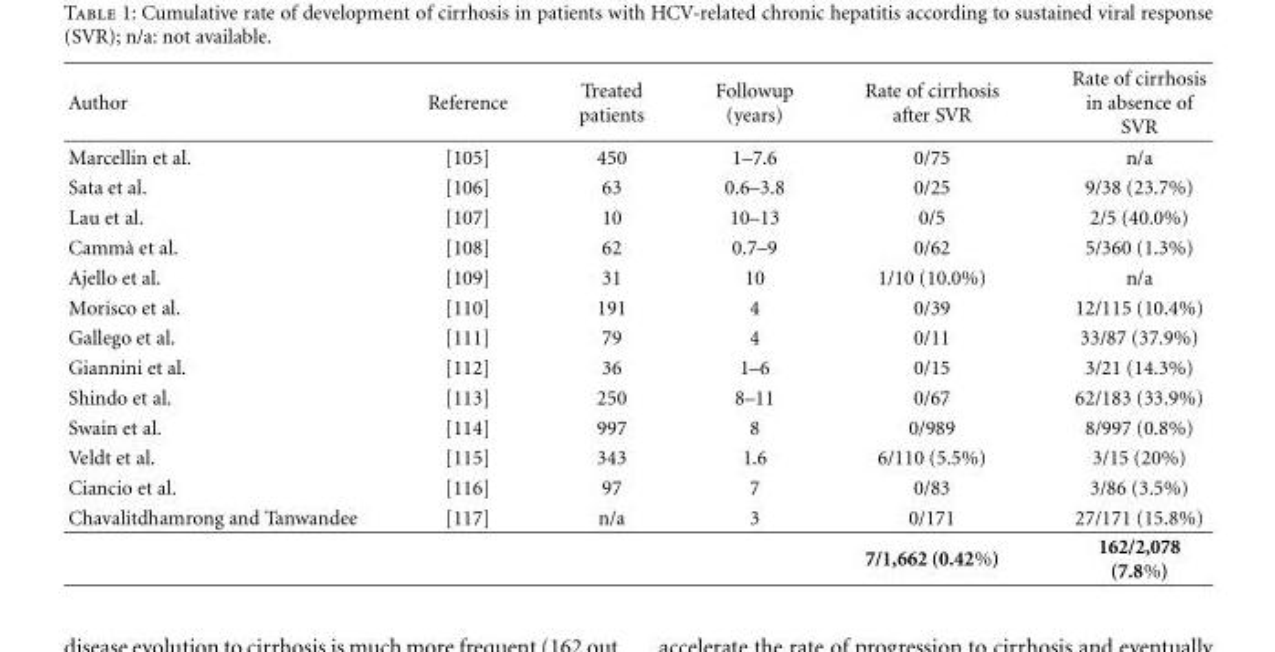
<table><thead><tr><td>Author</td><td>Reference</td><td>Treated patients</td><td>Followup (years)</td><td>Rate of cirrhosis after SVR</td><td>Rate of cirrhosis in absence of SVR</td></tr></thead><tbody><tr><td>Marcellin et al.</td><td>[105]</td><td>450</td><td>1–7.6</td><td>0/75</td><td>n/a</td></tr><tr><td>Sata et al.</td><td>[106]</td><td>63</td><td>0.6–3.8</td><td>0/25</td><td>9/38 (23.7%)</td></tr><tr><td>Lau et al.</td><td>[107]</td><td>10</td><td>10–13</td><td>0/5</td><td>2/5 (40.0%)</td></tr><tr><td>Camm`a et al.</td><td>[108]</td><td>62</td><td>0.7–9</td><td>0/62</td><td>5/360 (1.3%)</td></tr><tr><td>Ajello et al.</td><td>[109]</td><td>31</td><td>10</td><td>1/10 (10.0%)</td><td>n/a</td></tr><tr><td>Morisco et al.</td><td>[110]</td><td>191</td><td>4</td><td>0/39</td><td>12/115 (10.4%)</td></tr><tr><td>Gallego et al.</td><td>[111]</td><td>79</td><td>4</td><td>0/11</td><td>33/87 (37.9%)</td></tr><tr><td>Giannini et al.</td><td>[112]</td><td>36</td><td>1–6</td><td>0/15</td><td>3/21 (14.3%)</td></tr><tr><td>Shindo et al.</td><td>[113]</td><td>250</td><td>8–11</td><td>0/67</td><td>62/183 (33.9%)</td></tr><tr><td>Swain et al.</td><td>[114]</td><td>997</td><td>8</td><td>0/989</td><td>8/997 (0.8%)</td></tr><tr><td>Veldt et al.</td><td>[115]</td><td>343</td><td>1.6</td><td>6/110 (5.5%)</td><td>3/15 (20%)</td></tr><tr><td>Ciancio et al.</td><td>[116]</td><td>97</td><td>7</td><td>0/83</td><td>3/86 (3.5%)</td></tr><tr><td rowspan="2">Chavalitdhamrong and Tanwandee</td><td>[117]</td><td>n/a</td><td>3</td><td>0/171</td><td>27/171 (15.8%)</td></tr><tr><td></td><td></td><td></td><td>7/1,662 (0.42%)</td><td>162/2,078 (7.8%)</td></tr></tbody></table>